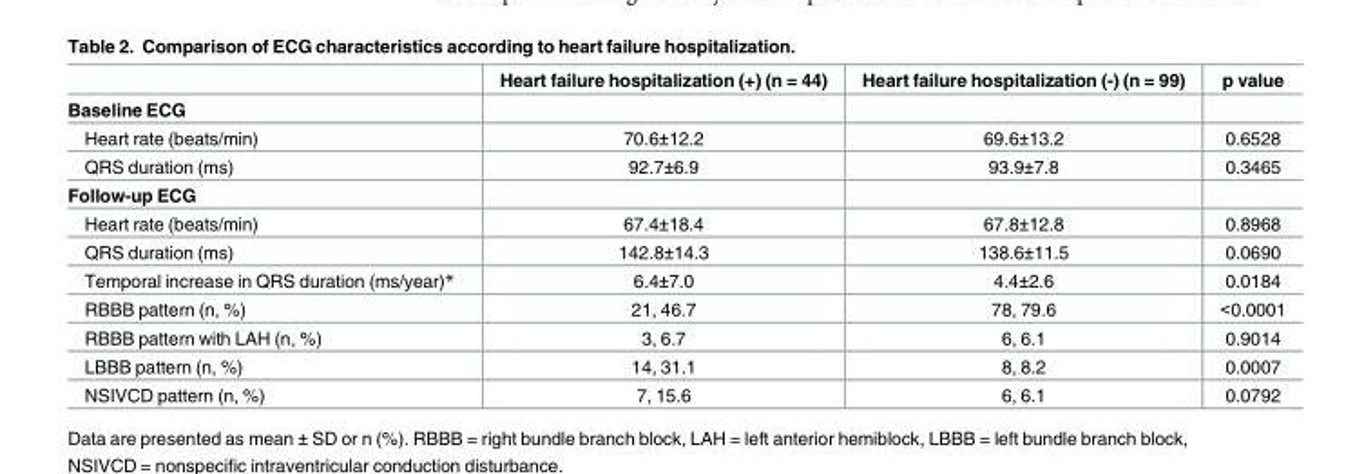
<table><thead><tr><td></td><td>Heart failure hospitalization (+) (n = 44)</td><td>Heart failure hospitalization (-) (n = 99)</td><td>p value</td></tr></thead><tbody><tr><td colspan="4">Baseline ECG</td></tr><tr><td>Heart rate (beats/min)</td><td>70.6±12.2</td><td>69.6±13.2</td><td>0.6528</td></tr><tr><td>QRS duration (ms)</td><td>92.7±6.9</td><td>93.9±7.8</td><td>0.3465</td></tr><tr><td colspan="4">Follow-up ECG</td></tr><tr><td>Heart rate (beats/min)</td><td>67.4±18.4</td><td>67.8±12.8</td><td>0.8968</td></tr><tr><td>QRS duration (ms)</td><td>142.8±14.3</td><td>138.6±11.5</td><td>0.0690</td></tr><tr><td>Temporal increase in QRS duration (ms/year)*</td><td>6.4±7.0</td><td>4.4±2.6</td><td>0.0184</td></tr><tr><td>RBBB pattern (n, %)</td><td>21, 46.7</td><td>78, 79.6</td><td>&lt;0.0001</td></tr><tr><td>RBBB pattern with LAH (n, %)</td><td>3, 6.7</td><td>6, 6.1</td><td>0.9014</td></tr><tr><td>LBBB pattern (n, %)</td><td>14, 31.1</td><td>8, 8.2</td><td>0.0007</td></tr><tr><td>NSIVCD pattern (n, %)</td><td>7, 15.6</td><td>6, 6.1</td><td>0.0792</td></tr></tbody></table>